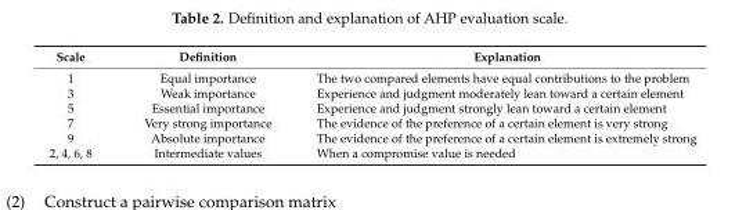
<table><thead><tr><td>Scale</td><td>Definition</td><td>Explanation</td></tr></thead><tbody><tr><td>1</td><td>Equal importance</td><td>The two compared elements have equal contributions to the problem</td></tr><tr><td>3</td><td>Weak importance</td><td>Experience and judgment moderately lean toward a certain element</td></tr><tr><td>5</td><td>Essential importance</td><td>Experience and judgment strongly lean toward a certain element</td></tr><tr><td>7</td><td>Very strong importance</td><td>The evidence of the preference of a certain element is very strong</td></tr><tr><td>9</td><td>Absolute importance</td><td>The evidence of the preference of a certain element is extremely strong</td></tr><tr><td>2, 4, 6, 8</td><td>Intermediate values</td><td>When a compromise value is needed</td></tr></tbody></table>